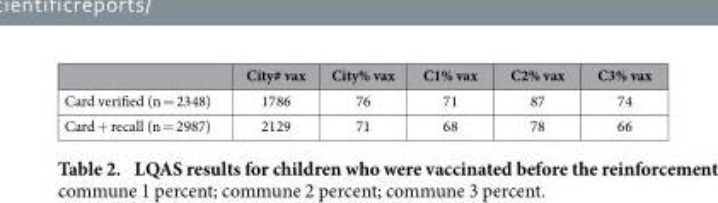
<table><thead><tr><td></td><td>City# vax</td><td>City% vax</td><td>C1% vax</td><td>C2% vax</td><td>C3% vax</td></tr></thead><tbody><tr><td>Card verified (n = 2348)</td><td>1786</td><td>76</td><td>71</td><td>87</td><td>74</td></tr><tr><td>Card + recall (n = 2987)</td><td>2129</td><td>71</td><td>68</td><td>78</td><td>66</td></tr></tbody></table>